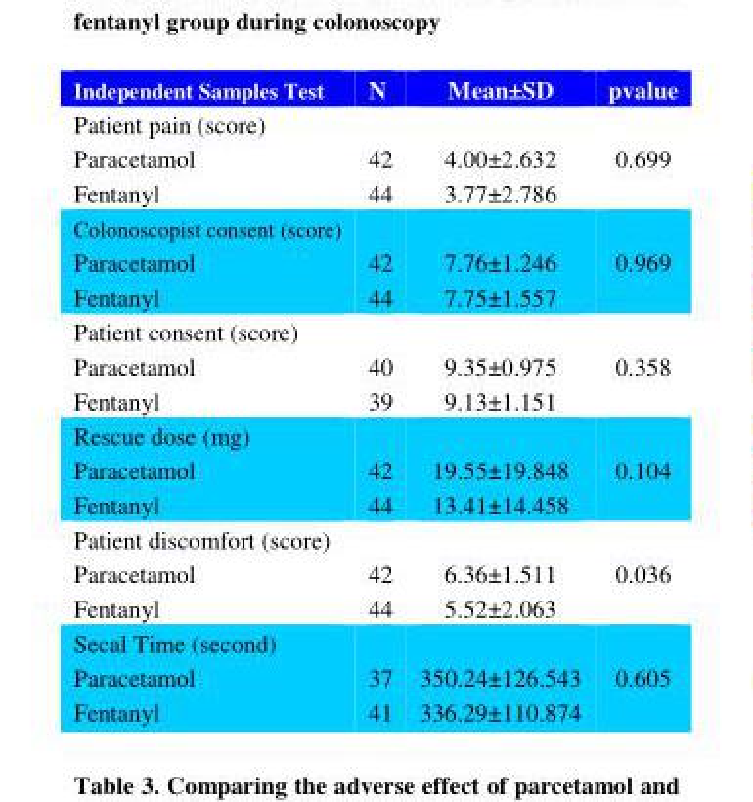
<table><thead><tr><td>Independent Samples Test</td><td>N</td><td>Mean±SD</td><td>pvalue</td></tr></thead><tbody><tr><td colspan="4">Patient pain (score)</td></tr><tr><td>Paracetamol Fentanyl</td><td>42 44</td><td>4.00±2.632 3.77±2.786</td><td>0.699</td></tr><tr><td colspan="4">Colonoscopist consent (score)</td></tr><tr><td>Paracetamol Fentanyl</td><td>42 44</td><td>7.76±1.246 7.75±1.557</td><td>0.969</td></tr><tr><td colspan="4">Patient consent (score)</td></tr><tr><td>Paracetamol Fentanyl</td><td>40 39</td><td>9.35±0.975 9.13±1.151</td><td>0.358</td></tr><tr><td colspan="4">Rescue dose (mg)</td></tr><tr><td>Paracetamol Fentanyl</td><td>42 44</td><td>19.55±19.848 13.41±14.458</td><td>0.104</td></tr><tr><td colspan="4">Patient discomfort (score)</td></tr><tr><td>Paracetamol Fentanyl</td><td>42 44</td><td>6.36±1.511 5.52±2.063</td><td>0.036</td></tr><tr><td colspan="4">Secal Time (second)</td></tr><tr><td>Paracetamol Fentanyl</td><td>37 41</td><td>350.24±126.543 336.29±110.874</td><td>0.605</td></tr></tbody></table>